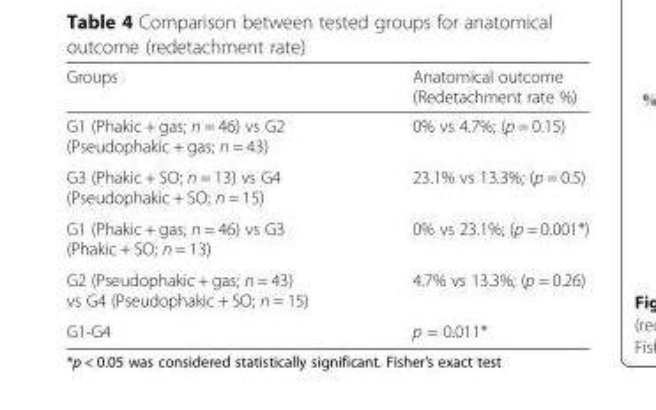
<table><thead><tr><td>Groups</td><td>Anatomical outcome (Redetachment rate %)</td></tr></thead><tbody><tr><td>G1 (Phakic + gas; n = 46) vs G2 (Pseudophakic + gas; n = 43)</td><td>0% vs 4.7%; (p = 0.15)</td></tr><tr><td>G3 (Phakic + SO; n = 13) vs G4 (Pseudophakic + SO; n = 15)</td><td>23.1% vs 13.3%; (p = 0.5)</td></tr><tr><td>G1 (Phakic + gas; n = 46) vs G3 (Phakic + SO; n = 13)</td><td>0% vs 23.1%; (p = 0.001*)</td></tr><tr><td>G2 (Pseudophakic + gas; n = 43) vs G4 (Pseudophakic + SO; n = 15)</td><td>4.7% vs 13.3%; (p = 0.26)</td></tr><tr><td>G1-G4</td><td>p = 0.011*</td></tr></tbody></table>